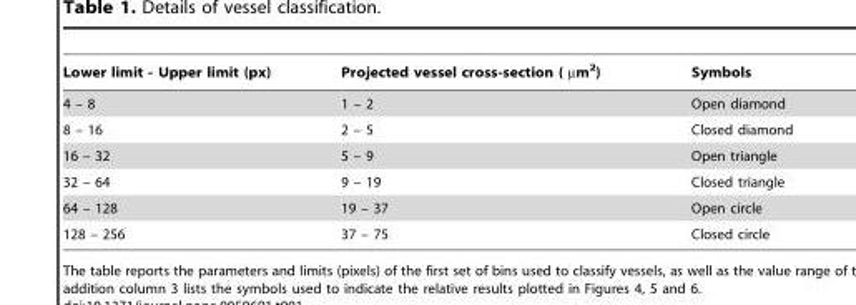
<table><thead><tr><td>Lower limit - Upper limit (px)</td><td>Projected vessel cross-section ( µm<sup>2</sup>)</td><td>Symbols</td></tr></thead><tbody><tr><td>4 – 8</td><td>1 – 2</td><td>Open diamond</td></tr><tr><td>8 – 16</td><td>2 – 5</td><td>Closed diamond</td></tr><tr><td>16 – 32</td><td>5 – 9</td><td>Open triangle</td></tr><tr><td>32 – 64</td><td>9 – 19</td><td>Closed triangle</td></tr><tr><td>64 – 128</td><td>19 – 37</td><td>Open circle</td></tr><tr><td>128 – 256</td><td>37 – 75</td><td>Closed circle</td></tr></tbody></table>